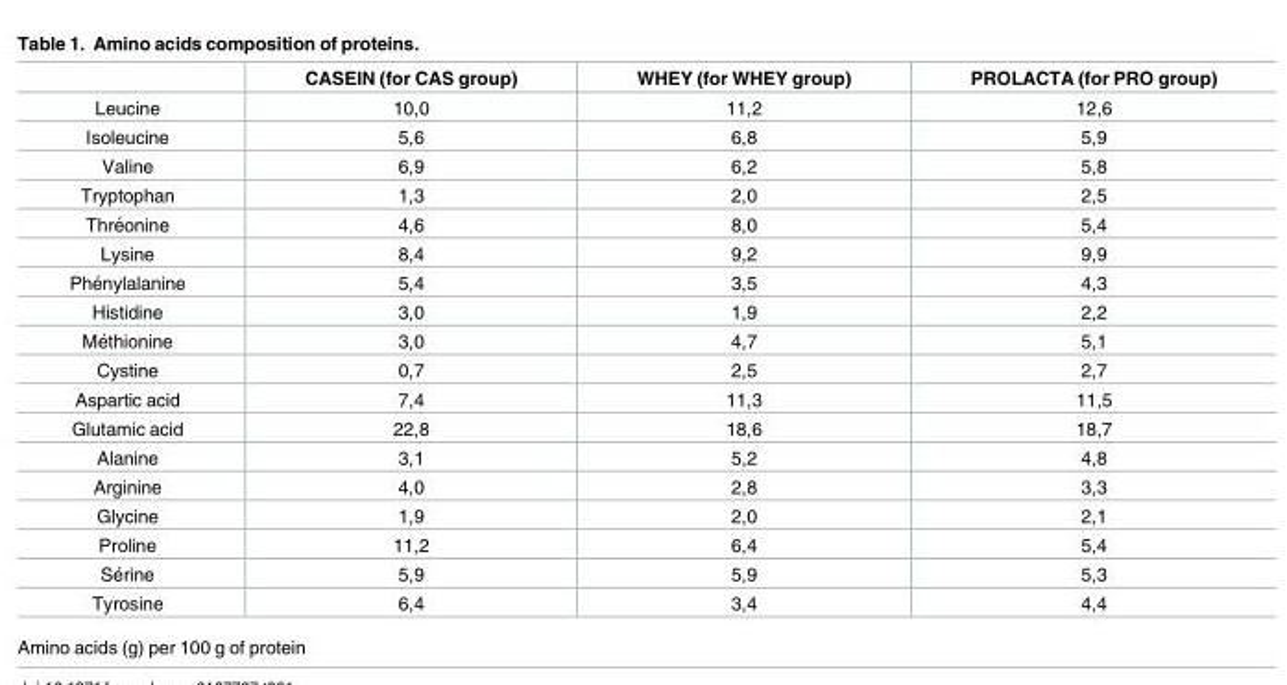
<table><thead><tr><td></td><td>CASEIN (for CAS group)</td><td>WHEY (for WHEY group)</td><td>PROLACTA (for PRO group)</td></tr></thead><tbody><tr><td>Leucine</td><td>10,0</td><td>11,2</td><td>12,6</td></tr><tr><td>Isoleucine</td><td>5,6</td><td>6,8</td><td>5,9</td></tr><tr><td>Valine</td><td>6,9</td><td>6,2</td><td>5,8</td></tr><tr><td>Tryptophan</td><td>1,3</td><td>2,0</td><td>2,5</td></tr><tr><td>Thre´onine</td><td>4,6</td><td>8,0</td><td>5,4</td></tr><tr><td>Lysine</td><td>8,4</td><td>9,2</td><td>9,9</td></tr><tr><td>Phe´nylalanine</td><td>5,4</td><td>3,5</td><td>4,3</td></tr><tr><td>Histidine</td><td>3,0</td><td>1,9</td><td>2,2</td></tr><tr><td>Me´thionine</td><td>3,0</td><td>4,7</td><td>5,1</td></tr><tr><td>Cystine</td><td>0,7</td><td>2,5</td><td>2,7</td></tr><tr><td>Aspartic acid</td><td>7,4</td><td>11,3</td><td>11,5</td></tr><tr><td>Glutamic acid</td><td>22,8</td><td>18,6</td><td>18,7</td></tr><tr><td>Alanine</td><td>3,1</td><td>5,2</td><td>4,8</td></tr><tr><td>Arginine</td><td>4,0</td><td>2,8</td><td>3,3</td></tr><tr><td>Glycine</td><td>1,9</td><td>2,0</td><td>2,1</td></tr><tr><td>Proline</td><td>11,2</td><td>6,4</td><td>5,4</td></tr><tr><td>Se´rine</td><td>5,9</td><td>5,9</td><td>5,3</td></tr><tr><td>Tyrosine</td><td>6,4</td><td>3,4</td><td>4,4</td></tr></tbody></table>